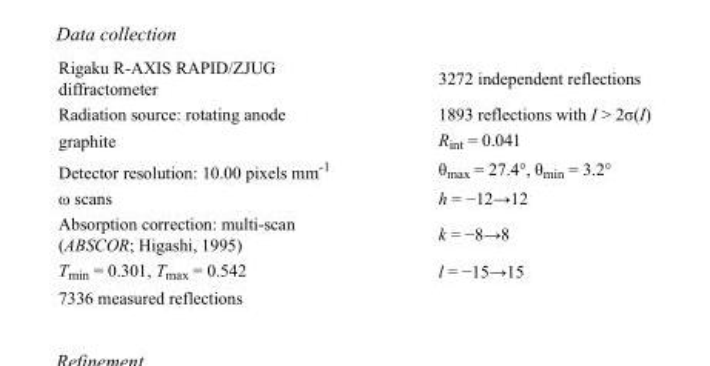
<table><tbody><tr><td>Rigaku R-AXIS RAPID/ZJUG diffractometer</td><td>3272 independent reflections</td></tr><tr><td>Radiation source: rotating anode</td><td>1893 reflections with I &gt; 2σ(I)</td></tr><tr><td>graphite</td><td>R<sub>int</sub> = 0.041</td></tr><tr><td>Detector resolution: 10.00 pixels mm<sup>-1</sup></td><td>θ<sub>max</sub> = 27.4°, θ<sub>min</sub> = 3.2°</td></tr><tr><td>ω scans</td><td>h = −12→12</td></tr><tr><td>Absorption correction: multi-scan (ABSCOR; Higashi, 1995)</td><td>k = −8→8</td></tr><tr><td>T<sub>min</sub> = 0.301, T<sub>max</sub> = 0.542</td><td>l = −15→15</td></tr><tr><td>7336 measured reflections</td><td></td></tr></tbody></table>